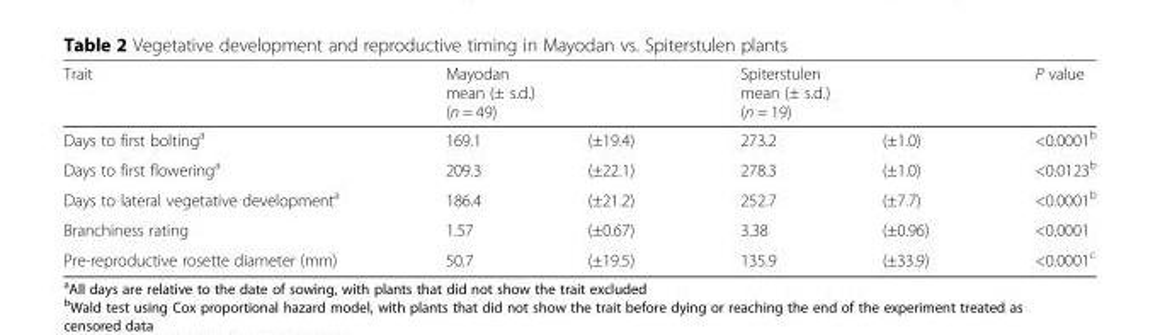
<table><thead><tr><td rowspan="4">Trait Days to first bolting<sup>a</sup></td><td rowspan="3" colspan="2">Mayodan mean (± s.d.) (n = 49)</td><td rowspan="3" colspan="2">Spiterstulen mean (± s.d.) (n = 19)</td><td rowspan="4">P value &lt;0.0001<sup>b</sup></td></tr><tr></tr><tr></tr><tr><td>169.1</td><td>(±19.4)</td><td>273.2</td><td>(±1.0)</td></tr></thead><tbody><tr><td>Days to first flowering<sup>a</sup></td><td>209.3</td><td>(±22.1)</td><td>278.3</td><td>(±1.0)</td><td>&lt;0.0123<sup>b</sup></td></tr><tr><td>Days to lateral vegetative development<sup>a</sup></td><td>186.4</td><td>(±21.2)</td><td>252.7</td><td>(±7.7)</td><td>&lt;0.0001<sup>b</sup></td></tr><tr><td>Branchiness rating</td><td>1.57</td><td>(±0.67)</td><td>3.38</td><td>(±0.96)</td><td>&lt;0.0001</td></tr><tr><td>Pre-reproductive rosette diameter (mm)</td><td>50.7</td><td>(±19.5)</td><td>135.9</td><td>(±33.9)</td><td>&lt;0.0001<sup>c</sup></td></tr></tbody></table>